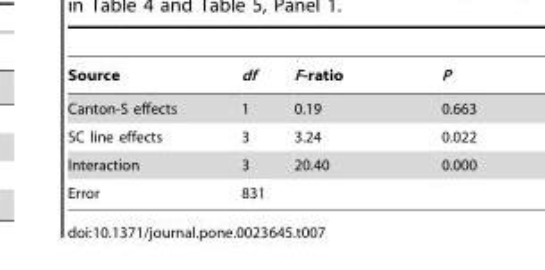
<table><thead><tr><td>Source</td><td>df</td><td>F-ratio</td><td>P</td></tr></thead><tbody><tr><td>Canton-S effects</td><td>1</td><td>0.19</td><td>0.663</td></tr><tr><td>SC line effects</td><td>3</td><td>3.24</td><td>0.022</td></tr><tr><td>Interaction</td><td>3</td><td>20.40</td><td>0.000</td></tr><tr><td>Error</td><td>831</td><td></td><td></td></tr></tbody></table>